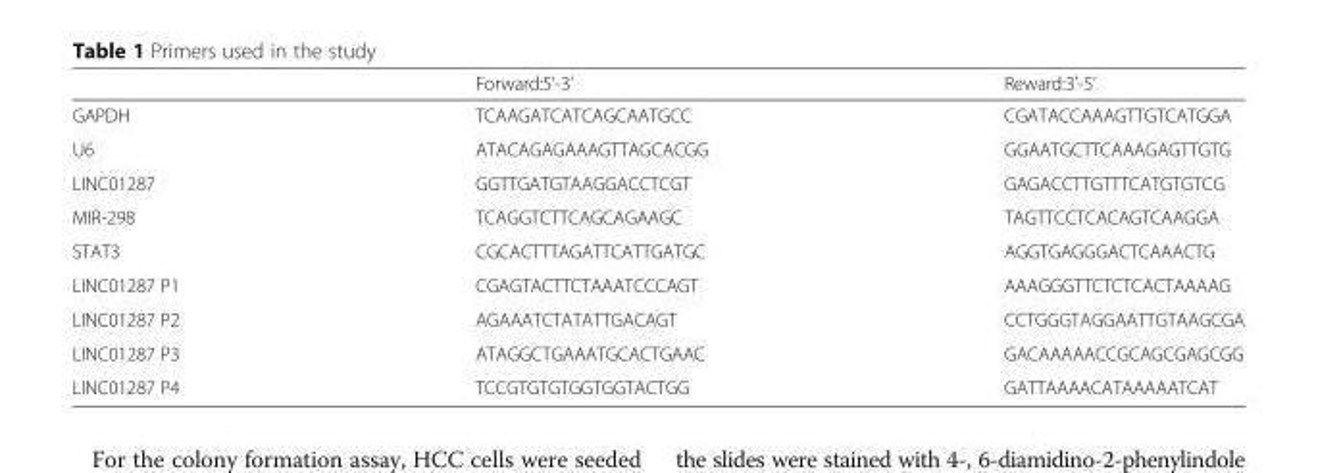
<table><thead><tr><td></td><td>Forward:5’-3’</td><td>Reward:3’-5’</td></tr></thead><tbody><tr><td>GAPDH</td><td>TCAAGATCATCAGCAATGCC</td><td>CGATACCAAAGTTGTCATGGA</td></tr><tr><td>U6</td><td>ATACAGAGAAAGTTAGCACGG</td><td>GGAATGCTTCAAAGAGTTGTG</td></tr><tr><td>LINC01287</td><td>GGTTGATGTAAGGACCTCGT</td><td>GAGACCTTGTTTCATGTGTCG</td></tr><tr><td>MIR-298</td><td>TCAGGTCTTCAGCAGAAGC</td><td>TAGTTCCTCACAGTCAAGGA</td></tr><tr><td>STAT3</td><td>CGCACTTTAGATTCATTGATGC</td><td>AGGTGAGGGACTCAAACTG</td></tr><tr><td>LINC01287 P1</td><td>CGAGTACTTCTAAATCCCAGT</td><td>AAAGGGTTCTCTCACTAAAAG</td></tr><tr><td>LINC01287 P2</td><td>AGAAATCTATATTGACAGT</td><td>CCTGGGTAGGAATTGTAAGCGA</td></tr><tr><td>LINC01287 P3</td><td>ATAGGCTGAAATGCACTGAAC</td><td>GACAAAAACCGCAGCGAGCGG</td></tr><tr><td>LINC01287 P4</td><td>TCCGTGTGTGGTGGTACTGG</td><td>GATTAAAACATAAAAATCAT</td></tr></tbody></table>